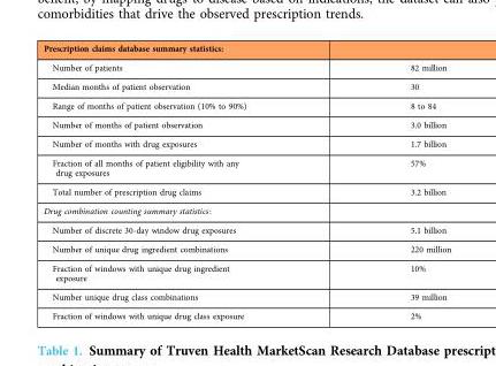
<table><thead><tr><td>Prescription claims database summary statistics:</td><td></td></tr></thead><tbody><tr><td>Number of patients</td><td>82 million</td></tr><tr><td>Median months of patient observation</td><td>30</td></tr><tr><td>Range of months of patient observation (10% to 90%)</td><td>8 to 84</td></tr><tr><td>Number of months of patient observation</td><td>3.0 billion</td></tr><tr><td>Number of months with drug exposures</td><td>1.7 billion</td></tr><tr><td>Fraction of all months of patient eligibility with any drug exposures</td><td>57%</td></tr><tr><td>Total number of prescription drug claims</td><td>3.2 billion</td></tr><tr><td colspan="2">Drug combination counting summary statistics:</td></tr><tr><td>Number of discrete 30-day window drug exposures</td><td>5.1 billion</td></tr><tr><td>Number of unique drug ingredient combinations</td><td>220 million</td></tr><tr><td>Fraction of windows with unique drug ingredient exposure</td><td>10%</td></tr><tr><td>Number unique drug class combinations</td><td>39 million</td></tr><tr><td>Fraction of windows with unique drug class exposure</td><td>2%</td></tr></tbody></table>